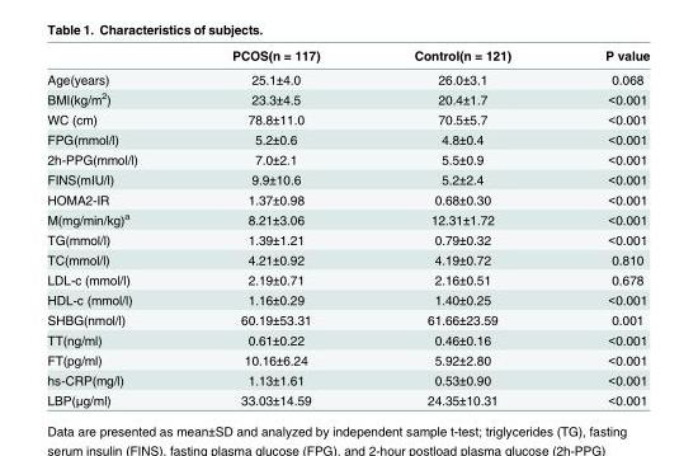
<table><thead><tr><td></td><td>PCOS(n = 117)</td><td>Control(n = 121)</td><td>P value</td></tr></thead><tbody><tr><td>Age(years)</td><td>25.1±4.0</td><td>26.0±3.1</td><td>0.068</td></tr><tr><td>BMI(kg/m<sup>2</sup>)</td><td>23.3±4.5</td><td>20.4±1.7</td><td>&lt;0.001</td></tr><tr><td>WC (cm)</td><td>78.8±11.0</td><td>70.5±5.7</td><td>&lt;0.001</td></tr><tr><td>FPG(mmol/l)</td><td>5.2±0.6</td><td>4.8±0.4</td><td>&lt;0.001</td></tr><tr><td>2h-PPG(mmol/l)</td><td>7.0±2.1</td><td>5.5±0.9</td><td>&lt;0.001</td></tr><tr><td>FINS(mIU/l)</td><td>9.9±10.6</td><td>5.2±2.4</td><td>&lt;0.001</td></tr><tr><td>HOMA2-IR</td><td>1.37±0.98</td><td>0.68±0.30</td><td>&lt;0.001</td></tr><tr><td>M(mg/min/kg)<sup>a</sup></td><td>8.21±3.06</td><td>12.31±1.72</td><td>&lt;0.001</td></tr><tr><td>TG(mmol/l)</td><td>1.39±1.21</td><td>0.79±0.32</td><td>&lt;0.001</td></tr><tr><td>TC(mmol/l)</td><td>4.21±0.92</td><td>4.19±0.72</td><td>0.810</td></tr><tr><td>LDL-c (mmol/l)</td><td>2.19±0.71</td><td>2.16±0.51</td><td>0.678</td></tr><tr><td>HDL-c (mmol/l)</td><td>1.16±0.29</td><td>1.40±0.25</td><td>&lt;0.001</td></tr><tr><td>SHBG(nmol/l)</td><td>60.19±53.31</td><td>61.66±23.59</td><td>0.001</td></tr><tr><td>TT(ng/ml)</td><td>0.61±0.22</td><td>0.46±0.16</td><td>&lt;0.001</td></tr><tr><td>FT(pg/ml)</td><td>10.16±6.24</td><td>5.92±2.80</td><td>&lt;0.001</td></tr><tr><td>hs-CRP(mg/l)</td><td>1.13±1.61</td><td>0.53±0.90</td><td>&lt;0.001</td></tr><tr><td>LBP(μg/ml)</td><td>33.03±14.59</td><td>24.35±10.31</td><td>&lt;0.001</td></tr></tbody></table>